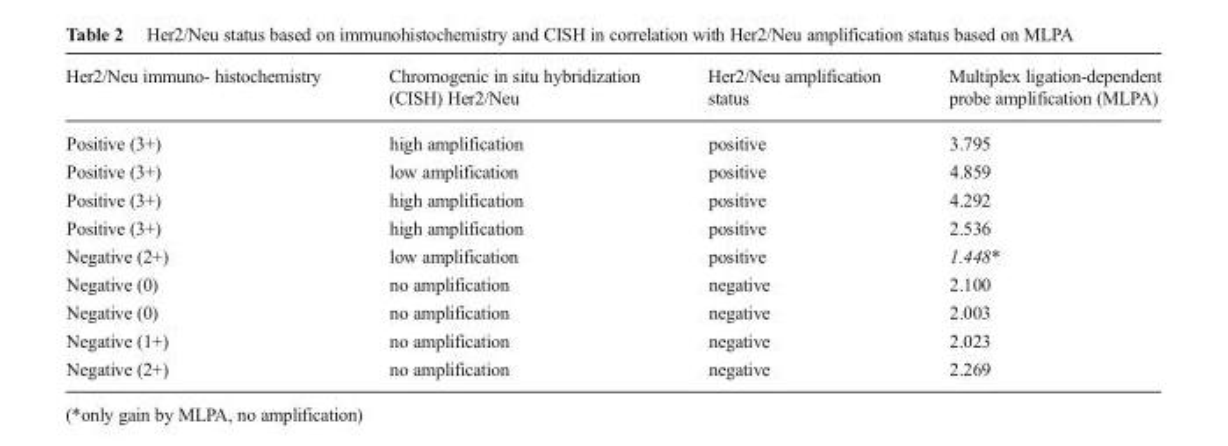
<table><thead><tr><td>Her2/Neu immuno- histochemistry</td><td>Chromogenic in situ hybridization (CISH) Her2/Neu</td><td>Her2/Neu amplification status</td><td>Multiplex ligation-dependent probe amplification (MLPA)</td></tr></thead><tbody><tr><td>Positive (3+)</td><td>high amplification</td><td>positive</td><td>3.795</td></tr><tr><td>Positive (3+)</td><td>low amplification</td><td>positive</td><td>4.859</td></tr><tr><td>Positive (3+)</td><td>high amplification</td><td>positive</td><td>4.292</td></tr><tr><td>Positive (3+)</td><td>high amplification</td><td>positive</td><td>2.536</td></tr><tr><td>Negative (2+)</td><td>low amplification</td><td>positive</td><td>1.448*</td></tr><tr><td>Negative (0)</td><td>no amplification</td><td>negative</td><td>2.100</td></tr><tr><td>Negative (0)</td><td>no amplification</td><td>negative</td><td>2.003</td></tr><tr><td>Negative (1+)</td><td>no amplification</td><td>negative</td><td>2.023</td></tr><tr><td>Negative (2+)</td><td>no amplification</td><td>negative</td><td>2.269</td></tr></tbody></table>